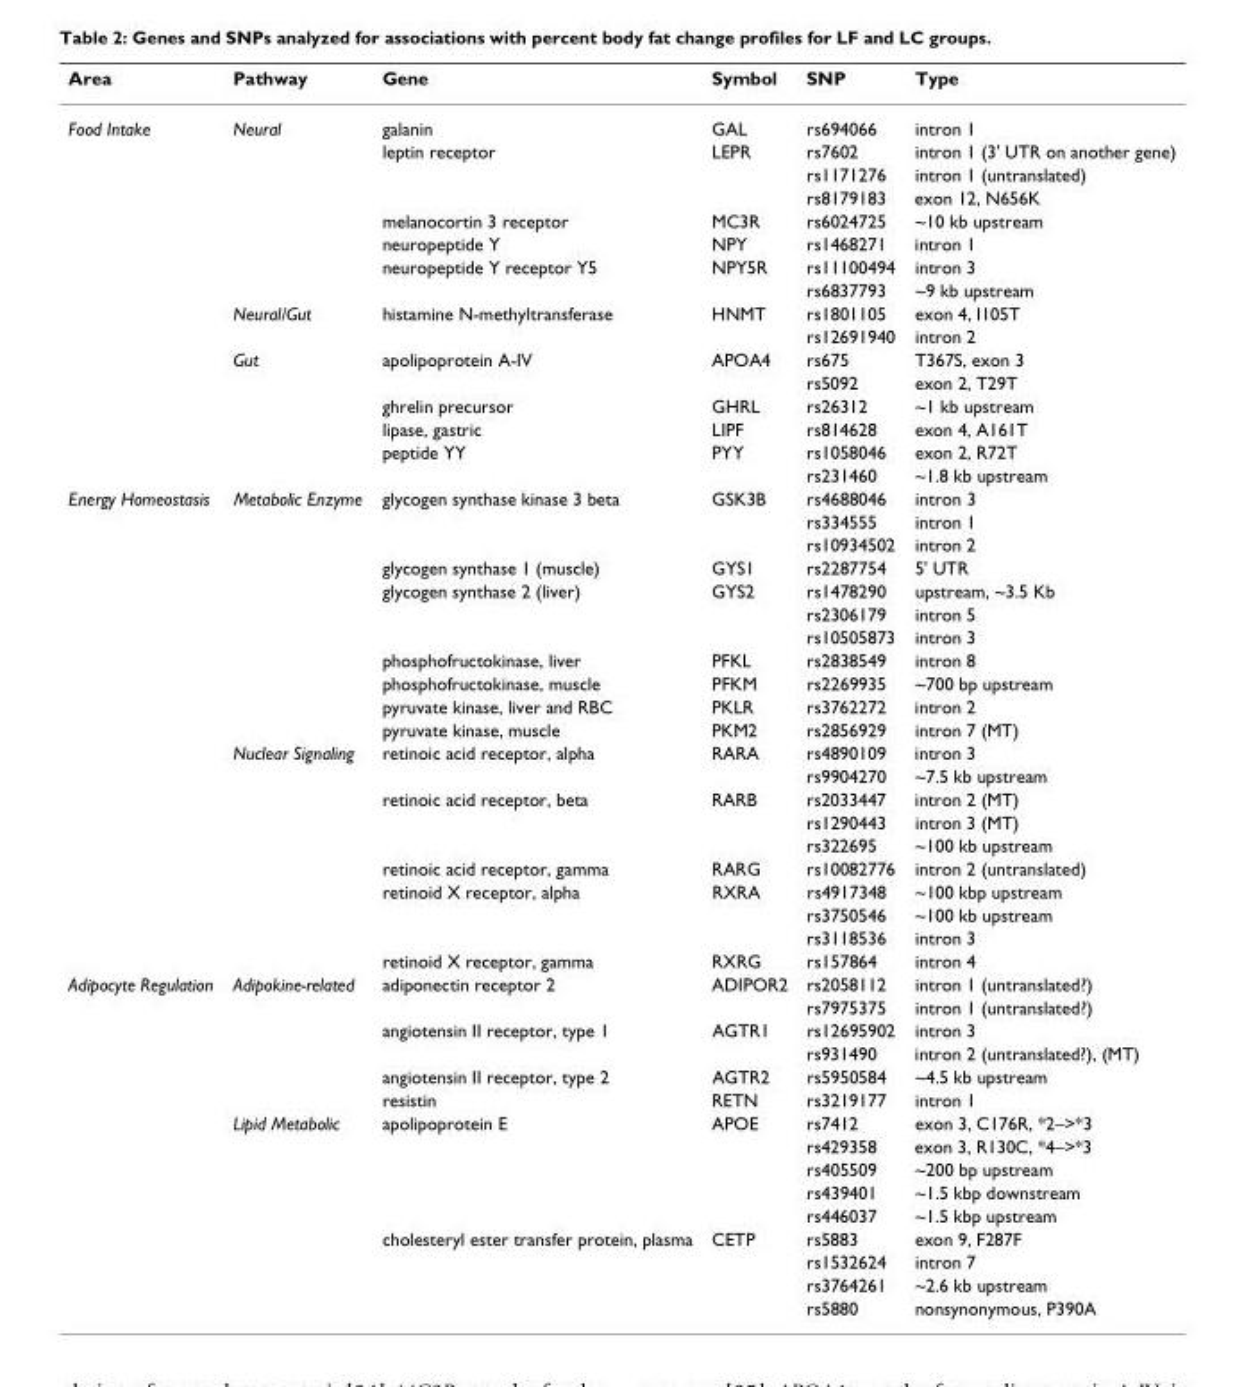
<table><thead><tr><td>Area</td><td>Pathway</td><td>Gene</td><td>Symbol</td><td>SNP</td><td>Type</td></tr></thead><tbody><tr><td rowspan="16">Food Intake</td><td>Neural</td><td>galanin</td><td>GAL</td><td>rs694066</td><td>intron 1</td></tr><tr><td></td><td>leptin receptor</td><td>LEPR</td><td>rs7602</td><td>intron 1 (3&#x27; UTR on another gene)</td></tr><tr><td></td><td></td><td></td><td>rs1171276</td><td>intron 1 (untranslated)</td></tr><tr><td></td><td></td><td></td><td>rs8179183</td><td>exon 12, N656K</td></tr><tr><td></td><td>melanocortin 3 receptor</td><td>MC3R</td><td>rs6024725</td><td>~10 kb upstream</td></tr><tr><td></td><td>neuropeptide Y</td><td>NPY</td><td>rs1468271</td><td>intron 1</td></tr><tr><td></td><td>neuropeptide Y receptor Y5</td><td>NPY5R</td><td>rs11100494</td><td>intron 3</td></tr><tr><td></td><td></td><td></td><td>rs6837793</td><td>~9 kb upstream</td></tr><tr><td>Neural/Gut</td><td>histamine N-methyltransferase</td><td>HNMT</td><td>rs1801105</td><td>exon 4, I105T</td></tr><tr><td></td><td></td><td></td><td>rs12691940</td><td>intron 2</td></tr><tr><td>Gut</td><td>apolipoprotein A-IV</td><td>APOA4</td><td>rs675</td><td>T367S, exon 3</td></tr><tr><td></td><td></td><td></td><td>rs5092</td><td>exon 2, T29T</td></tr><tr><td></td><td>ghrelin precursor</td><td>GHRL</td><td>rs26312</td><td>~1 kb upstream</td></tr><tr><td></td><td>lipase, gastric</td><td>LIPF</td><td>rs814628</td><td>exon 4, A161T</td></tr><tr><td></td><td>peptide YY</td><td>PYY</td><td>rs1058046</td><td>exon 2, R72T</td></tr><tr><td></td><td></td><td></td><td>rs231460</td><td>~1.8 kb upstream</td></tr><tr><td rowspan="21">Energy Homeostasis</td><td>Metabolic Enzyme</td><td>glycogen synthase kinase 3 beta</td><td>GSK3B</td><td>rs4688046</td><td>intron 3</td></tr><tr><td></td><td></td><td></td><td>rs334555</td><td>intron 1</td></tr><tr><td></td><td></td><td></td><td>rs10934502</td><td>intron 2</td></tr><tr><td></td><td>glycogen synthase 1 (muscle)</td><td>GYS1</td><td>rs2287754</td><td>5&#x27; UTR</td></tr><tr><td></td><td>glycogen synthase 2 (liver)</td><td>GYS2</td><td>rs1478290</td><td>upstream, ~3.5 Kb</td></tr><tr><td></td><td></td><td></td><td>rs2306179</td><td>intron 5</td></tr><tr><td></td><td></td><td></td><td>rs10505873</td><td>intron 3</td></tr><tr><td></td><td>phosphofructokinase, liver</td><td>PFKL</td><td>rs2838549</td><td>intron 8</td></tr><tr><td></td><td>phosphofructokinase, muscle</td><td>PFKM</td><td>rs2269935</td><td>~700 bp upstream</td></tr><tr><td></td><td>pyruvate kinase, liver and RBC</td><td>PKLR</td><td>rs3762272</td><td>intron 2</td></tr><tr><td></td><td>pyruvate kinase, muscle</td><td>PKM2</td><td>rs2856929</td><td>intron 7 (MT)</td></tr><tr><td>Nuclear Signaling</td><td>retinoic acid receptor, alpha</td><td>RARA</td><td>rs4890109</td><td>intron 3</td></tr><tr><td></td><td></td><td></td><td>rs9904270</td><td>~7.5 kb upstream</td></tr><tr><td></td><td>retinoic acid receptor, beta</td><td>RARB</td><td>rs2033447</td><td>intron 2 (MT)</td></tr><tr><td></td><td></td><td></td><td>rs1290443</td><td>intron 3 (MT)</td></tr><tr><td></td><td></td><td></td><td>rs322695</td><td>~100 kb upstream</td></tr><tr><td></td><td>retinoic acid receptor, gamma</td><td>RARG</td><td>rs10082776</td><td>intron 2 (untranslated)</td></tr><tr><td></td><td>retinoid X receptor, alpha</td><td>RXRA</td><td>rs4917348</td><td>~100 kbp upstream</td></tr><tr><td></td><td></td><td></td><td>rs3750546</td><td>~100 kb upstream</td></tr><tr><td></td><td></td><td></td><td>rs3118536</td><td>intron 3</td></tr><tr><td></td><td>retinoid X receptor, gamma</td><td>RXRG</td><td>rs157864</td><td>intron 4</td></tr><tr><td rowspan="15">Adipocyte Regulation</td><td>Adipokine-related</td><td>adiponectin receptor 2</td><td>ADIPOR2</td><td>rs2058112</td><td>intron 1 (untranslated?)</td></tr><tr><td></td><td></td><td></td><td>rs7975375</td><td>intron 1 (untranslated?)</td></tr><tr><td></td><td>angiotensin II receptor, type 1</td><td>AGTR1</td><td>rs12695902</td><td>intron 3</td></tr><tr><td></td><td></td><td></td><td>rs931490</td><td>intron 2 (untranslated?), (MT)</td></tr><tr><td></td><td>angiotensin II receptor, type 2</td><td>AGTR2</td><td>rs5950584</td><td>~4.5 kb upstream</td></tr><tr><td></td><td>resistin</td><td>RETN</td><td>rs3219177</td><td>intron 1</td></tr><tr><td>Lipid Metabolic</td><td>apolipoprotein E</td><td>APOE</td><td>rs7412</td><td>exon 3, C176R, *2–&gt;*3</td></tr><tr><td></td><td></td><td></td><td>rs429358</td><td>exon 3, R130C, *4–&gt;*3</td></tr><tr><td></td><td></td><td></td><td>rs405509</td><td>~200 bp upstream</td></tr><tr><td></td><td></td><td></td><td>rs439401</td><td>~1.5 kbp downstream</td></tr><tr><td></td><td></td><td></td><td>rs446037</td><td>~1.5 kbp upstream</td></tr><tr><td></td><td>cholesteryl ester transfer protein, plasma</td><td>CETP</td><td>rs5883</td><td>exon 9, F287F</td></tr><tr><td></td><td></td><td></td><td>rs1532624</td><td>intron 7</td></tr><tr><td></td><td></td><td></td><td>rs3764261</td><td>~2.6 kb upstream</td></tr><tr><td></td><td></td><td></td><td>rs5880</td><td>nonsynonymous, P390A</td></tr></tbody></table>